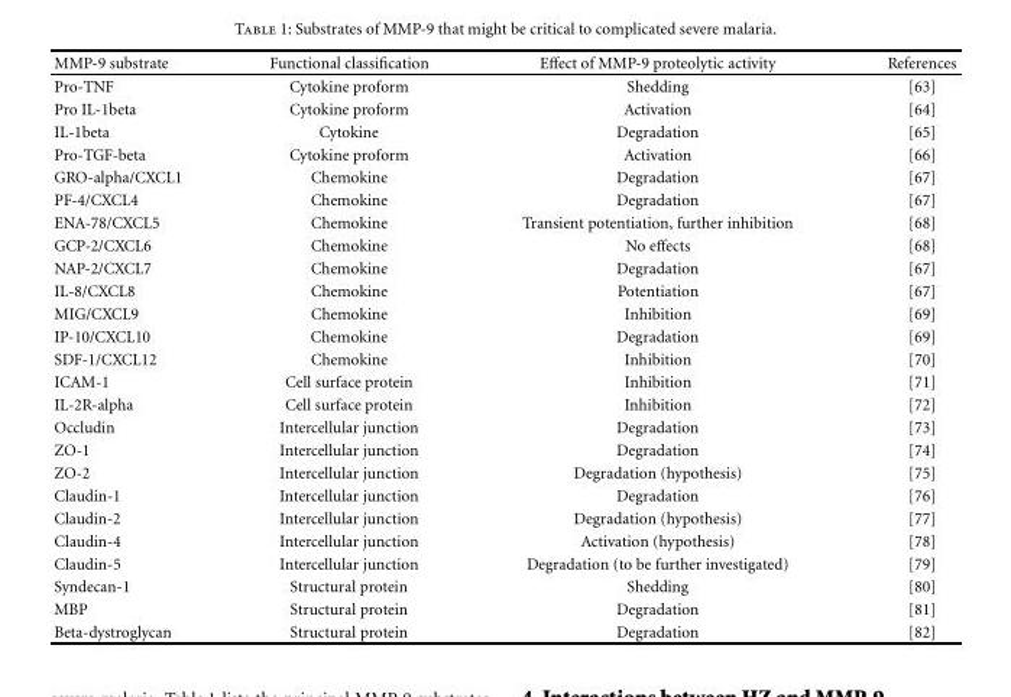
<table><thead><tr><td>MMP-9 substrate</td><td>Functional classification</td><td>Effect of MMP-9 proteolytic activity</td><td>References</td></tr></thead><tbody><tr><td>Pro-TNF</td><td>Cytokine proform</td><td>Shedding</td><td>[63]</td></tr><tr><td>Pro IL-1beta</td><td>Cytokine proform</td><td>Activation</td><td>[64]</td></tr><tr><td>IL-1beta</td><td>Cytokine</td><td>Degradation</td><td>[65]</td></tr><tr><td>Pro-TGF-beta</td><td>Cytokine proform</td><td>Activation</td><td>[66]</td></tr><tr><td>GRO-alpha/CXCL1</td><td>Chemokine</td><td>Degradation</td><td>[67]</td></tr><tr><td>PF-4/CXCL4</td><td>Chemokine</td><td>Degradation</td><td>[67]</td></tr><tr><td>ENA-78/CXCL5</td><td>Chemokine</td><td>Transient potentiation, further inhibition</td><td>[68]</td></tr><tr><td>GCP-2/CXCL6</td><td>Chemokine</td><td>No effects</td><td>[68]</td></tr><tr><td>NAP-2/CXCL7</td><td>Chemokine</td><td>Degradation</td><td>[67]</td></tr><tr><td>IL-8/CXCL8</td><td>Chemokine</td><td>Potentiation</td><td>[67]</td></tr><tr><td>MIG/CXCL9</td><td>Chemokine</td><td>Inhibition</td><td>[69]</td></tr><tr><td>IP-10/CXCL10</td><td>Chemokine</td><td>Degradation</td><td>[69]</td></tr><tr><td>SDF-1/CXCL12</td><td>Chemokine</td><td>Inhibition</td><td>[70]</td></tr><tr><td>ICAM-1</td><td>Cell surface protein</td><td>Inhibition</td><td>[71]</td></tr><tr><td>IL-2R-alpha</td><td>Cell surface protein</td><td>Inhibition</td><td>[72]</td></tr><tr><td>Occludin</td><td>Intercellular junction</td><td>Degradation</td><td>[73]</td></tr><tr><td>ZO-1</td><td>Intercellular junction</td><td>Degradation</td><td>[74]</td></tr><tr><td>ZO-2</td><td>Intercellular junction</td><td>Degradation (hypothesis)</td><td>[75]</td></tr><tr><td>Claudin-1</td><td>Intercellular junction</td><td>Degradation</td><td>[76]</td></tr><tr><td>Claudin-2</td><td>Intercellular junction</td><td>Degradation (hypothesis)</td><td>[77]</td></tr><tr><td>Claudin-4</td><td>Intercellular junction</td><td>Activation (hypothesis)</td><td>[78]</td></tr><tr><td>Claudin-5</td><td>Intercellular junction</td><td>Degradation (to be further investigated)</td><td>[79]</td></tr><tr><td>Syndecan-1</td><td>Structural protein</td><td>Shedding</td><td>[80]</td></tr><tr><td>MBP</td><td>Structural protein</td><td>Degradation</td><td>[81]</td></tr><tr><td>Beta-dystroglycan</td><td>Structural protein</td><td>Degradation</td><td>[82]</td></tr></tbody></table>